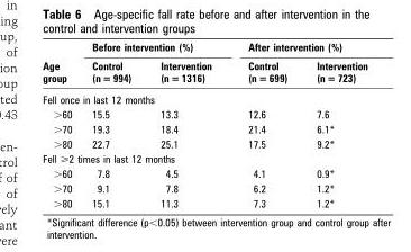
<table><thead><tr><td rowspan="2">Age group</td><td colspan="2">Before intervention (%)</td><td colspan="2">After intervention (%)</td></tr><tr><td>Control (n = 994)</td><td>Intervention (n = 1316)</td><td>Control (n = 699)</td><td>Intervention (n = 723)</td></tr></thead><tbody><tr><td colspan="5">Fell once in last 12 months</td></tr><tr><td>&gt;60</td><td>15.5</td><td>13.3</td><td>12.6</td><td>7.6</td></tr><tr><td>&gt;70</td><td>19.3</td><td>18.4</td><td>21.4</td><td>6.1*</td></tr><tr><td>&gt;80</td><td>22.7</td><td>25.1</td><td>17.5</td><td>9.2*</td></tr><tr><td colspan="5">Fell &gt;2 times in last 12 months</td></tr><tr><td>&gt;60</td><td>7.8</td><td>4.5</td><td>4.1</td><td>0.9*</td></tr><tr><td>&gt;70</td><td>9.1</td><td>7.8</td><td>6.2</td><td>1.2*</td></tr><tr><td>&gt;80</td><td>15.1</td><td>11.3</td><td>7.3</td><td>1.2*</td></tr></tbody></table>